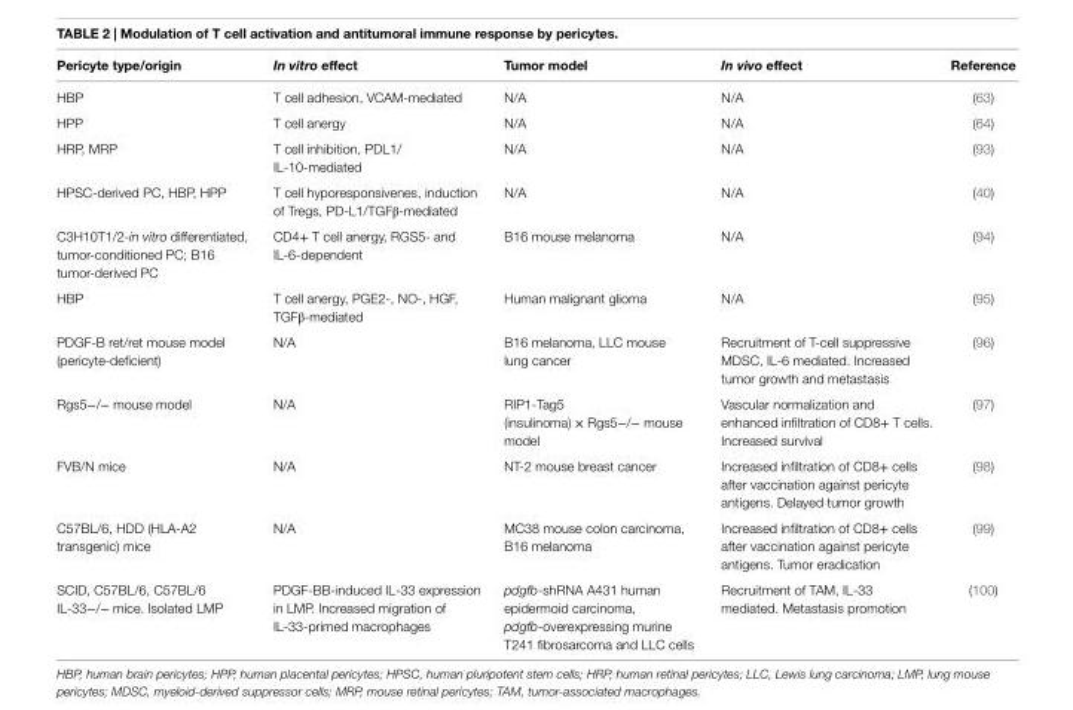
<table><thead><tr><td>Pericyte type/origin</td><td>In vitro effect</td><td>Tumor model</td><td>In vivo effect</td><td>Reference</td></tr></thead><tbody><tr><td>HBP</td><td>T cell adhesion, VCAM-mediated</td><td>N/A</td><td>N/A</td><td>(63)</td></tr><tr><td>HPP</td><td>T cell anergy</td><td>N/A</td><td>N/A</td><td>(64)</td></tr><tr><td>HRP, MRP</td><td>T cell inhibition, PDL1/ IL-10-mediated</td><td>N/A</td><td>N/A</td><td>(93)</td></tr><tr><td>HPSC-derived PC, HBP, HPP</td><td>T cell hyporesponsivenes, induction of Tregs, PD-L1/TGFβ-mediated</td><td>N/A</td><td>N/A</td><td>(40)</td></tr><tr><td>C3H10T1/2-in vitro differentiated, tumor-conditioned PC; B16 tumor-derived PC</td><td>CD4+ T cell anergy, RGS5- and IL-6-dependent</td><td>B16 mouse melanoma</td><td>N/A</td><td>(94)</td></tr><tr><td>HBP</td><td>T cell anergy, PGE2-, NO-, HGF, TGFβ-mediated</td><td>Human malignant glioma</td><td>N/A</td><td>(95)</td></tr><tr><td>PDGF-B ret/ret mouse model (pericyte-deficient)</td><td>N/A</td><td>B16 melanoma, LLC mouse lung cancer</td><td>Recruitment of T-cell suppressive MDSC, IL-6 mediated. Increased tumor growth and metastasis</td><td>(96)</td></tr><tr><td>Rgs5−/− mouse model</td><td>N/A</td><td>RIP1-Tag5 (insulinoma) × Rgs5−/− mouse model</td><td>Vascular normalization and enhanced infiltration of CD8+ T cells. Increased survival</td><td>(97)</td></tr><tr><td>FVB/N mice</td><td>N/A</td><td>NT-2 mouse breast cancer</td><td>Increased infiltration of CD8+ cells after vaccination against pericyte antigens. Delayed tumor growth</td><td>(98)</td></tr><tr><td>C57BL/6, HDD (HLA-A2 transgenic) mice</td><td>N/A</td><td>MC38 mouse colon carcinoma, B16 melanoma</td><td>Increased infiltration of CD8+ cells after vaccination against pericyte antigens. Tumor eradication</td><td>(99)</td></tr><tr><td>SCID, C57BL/6, C57BL/6 IL-33−/− mice. Isolated LMP</td><td>PDGF-BB-induced IL-33 expression in LMP. Increased migration of IL-33-primed macrophages</td><td>pdgfb-shRNA A431 human epidermoid carcinoma, pdgfb-overexpressing murine T241 fibrosarcoma and LLC cells</td><td>Recruitment of TAM, IL-33 mediated. Metastasis promotion</td><td>(100)</td></tr></tbody></table>